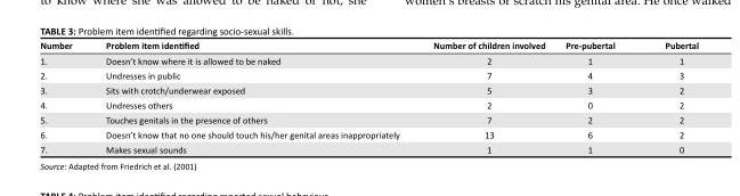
<table><thead><tr><td>Number</td><td>Problem item identified</td><td>Number of children involved</td><td>Pre-pubertal</td><td>Pubertal</td></tr></thead><tbody><tr><td>1.</td><td>Doesn’t know where it is allowed to be naked</td><td>2</td><td>1</td><td>1</td></tr><tr><td>2.</td><td>Undresses in public</td><td>7</td><td>4</td><td>3</td></tr><tr><td>3.</td><td>Sits with crotch/underwear exposed</td><td>5</td><td>3</td><td>2</td></tr><tr><td>4.</td><td>Undresses others</td><td>2</td><td>0</td><td>2</td></tr><tr><td>5.</td><td>Touches genitals in the presence of others</td><td>7</td><td>2</td><td>2</td></tr><tr><td>6.</td><td>Doesn’t know that no one should touch his/her genital areas inappropriately</td><td>13</td><td>6</td><td>2</td></tr><tr><td>7.</td><td>Makes sexual sounds</td><td>1</td><td>1</td><td>0</td></tr></tbody></table>